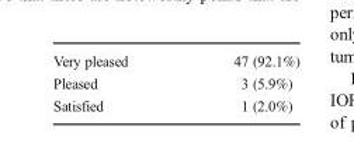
<table><tbody><tr><td>Very pleased</td><td>47 (92.1%)</td></tr><tr><td>Pleased</td><td>3 (5.9%)</td></tr><tr><td>Satisfied</td><td>1 (2.0%)</td></tr></tbody></table>